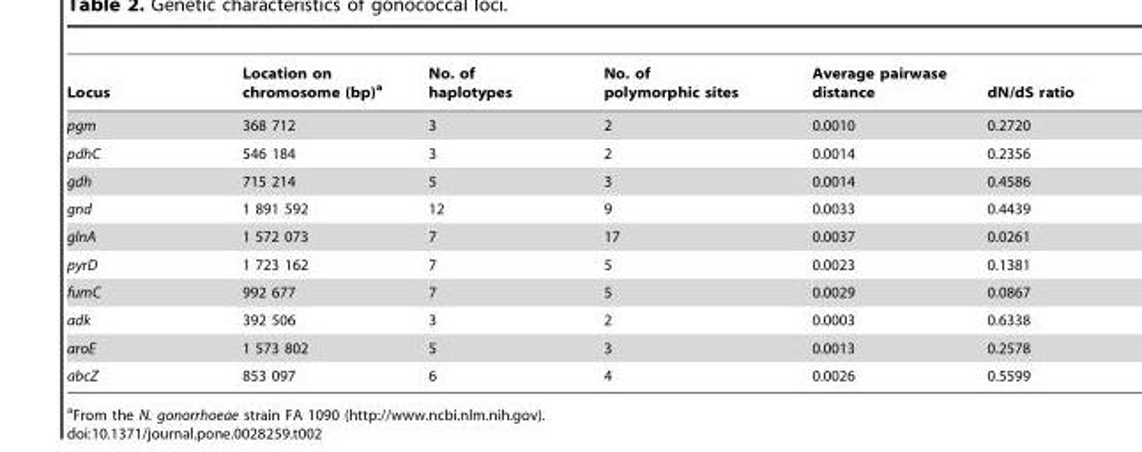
<table><thead><tr><td>Locus</td><td>Location on chromosome (bp)<sup>a</sup></td><td>No. of haplotypes</td><td>No. of polymorphic sites</td><td>Average pairwase distance</td><td>dN/dS ratio</td></tr></thead><tbody><tr><td>pgm</td><td>368 712</td><td>3</td><td>2</td><td>0.0010</td><td>0.2720</td></tr><tr><td>pdhC</td><td>546 184</td><td>3</td><td>2</td><td>0.0014</td><td>0.2356</td></tr><tr><td>gdh</td><td>715 214</td><td>5</td><td>3</td><td>0.0014</td><td>0.4586</td></tr><tr><td>gnd</td><td>1 891 592</td><td>12</td><td>9</td><td>0.0033</td><td>0.4439</td></tr><tr><td>glnA</td><td>1 572 073</td><td>7</td><td>17</td><td>0.0037</td><td>0.0261</td></tr><tr><td>pyrD</td><td>1 723 162</td><td>7</td><td>5</td><td>0.0023</td><td>0.1381</td></tr><tr><td>fumC</td><td>992 677</td><td>7</td><td>5</td><td>0.0029</td><td>0.0867</td></tr><tr><td>adk</td><td>392 506</td><td>3</td><td>2</td><td>0.0003</td><td>0.6338</td></tr><tr><td>aroE</td><td>1 573 802</td><td>5</td><td>3</td><td>0.0013</td><td>0.2578</td></tr><tr><td>abcZ</td><td>853 097</td><td>6</td><td>4</td><td>0.0026</td><td>0.5599</td></tr></tbody></table>